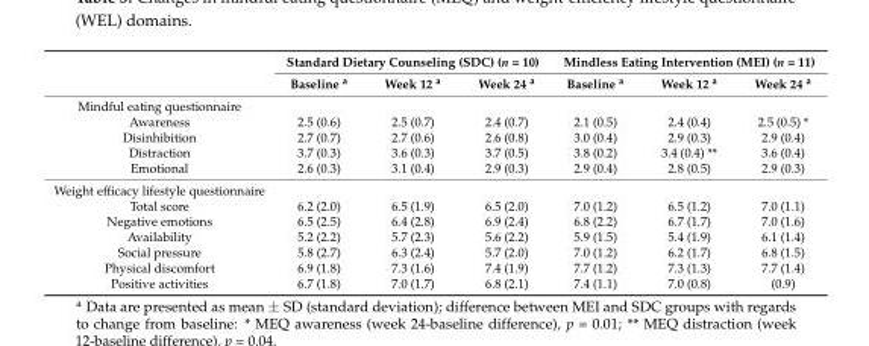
<table><thead><tr><td rowspan="2"></td><td colspan="3">Standard Dietary Counseling (SDC) (n = 10)</td><td colspan="3">Mindless Eating Intervention (MEI) (n = 11)</td></tr><tr><td>Baseline <sup>a</sup></td><td>Week 12 <sup>a</sup></td><td>Week 24 <sup>a</sup></td><td>Baseline <sup>a</sup></td><td>Week 12 <sup>a</sup></td><td>Week 24 <sup>a</sup></td></tr></thead><tbody><tr><td colspan="7">Mindful eating questionnaire</td></tr><tr><td>Awareness</td><td>2.5 (0.6)</td><td>2.5 (0.7)</td><td>2.4 (0.7)</td><td>2.1 (0.5)</td><td>2.4 (0.4)</td><td>2.5 (0.5) *</td></tr><tr><td>Disinhibition</td><td>2.7 (0.7)</td><td>2.7 (0.6)</td><td>2.6 (0.8)</td><td>3.0 (0.4)</td><td>2.9 (0.3)</td><td>2.9 (0.4)</td></tr><tr><td>Distraction</td><td>3.7 (0.3)</td><td>3.6 (0.3)</td><td>3.7 (0.5)</td><td>3.8 (0.2)</td><td>3.4 (0.4) **</td><td>3.6 (0.4)</td></tr><tr><td>Emotional</td><td>2.6 (0.3)</td><td>3.1 (0.4)</td><td>2.9 (0.3)</td><td>2.9 (0.4)</td><td>2.8 (0.5)</td><td>2.9 (0.3)</td></tr><tr><td colspan="7">Weight efficacy lifestyle questionnaire</td></tr><tr><td>Total score</td><td>6.2 (2.0)</td><td>6.5 (1.9)</td><td>6.5 (2.0)</td><td>7.0 (1.2)</td><td>6.5 (1.2)</td><td>7.0 (1.1)</td></tr><tr><td>Negative emotions</td><td>6.5 (2.5)</td><td>6.4 (2.8)</td><td>6.9 (2.4)</td><td>6.8 (2.2)</td><td>6.7 (1.7)</td><td>7.0 (1.6)</td></tr><tr><td>Availability</td><td>5.2 (2.2)</td><td>5.7 (2.3)</td><td>5.6 (2.2)</td><td>5.9 (1.5)</td><td>5.4 (1.9)</td><td>6.1 (1.4)</td></tr><tr><td>Social pressure</td><td>5.8 (2.7)</td><td>6.3 (2.4)</td><td>5.7 (2.0)</td><td>7.0 (1.2)</td><td>6.2 (1.7)</td><td>6.8 (1.5)</td></tr><tr><td>Physical discomfort</td><td>6.9 (1.8)</td><td>7.3 (1.6)</td><td>7.4 (1.9)</td><td>7.7 (1.2)</td><td>7.3 (1.3)</td><td>7.7 (1.4)</td></tr><tr><td>Positive activities</td><td>6.7 (1.8)</td><td>7.0 (1.7)</td><td>6.8 (2.1)</td><td>7.4 (1.1)</td><td>7.0 (0.8)</td><td>(0.9)</td></tr></tbody></table>